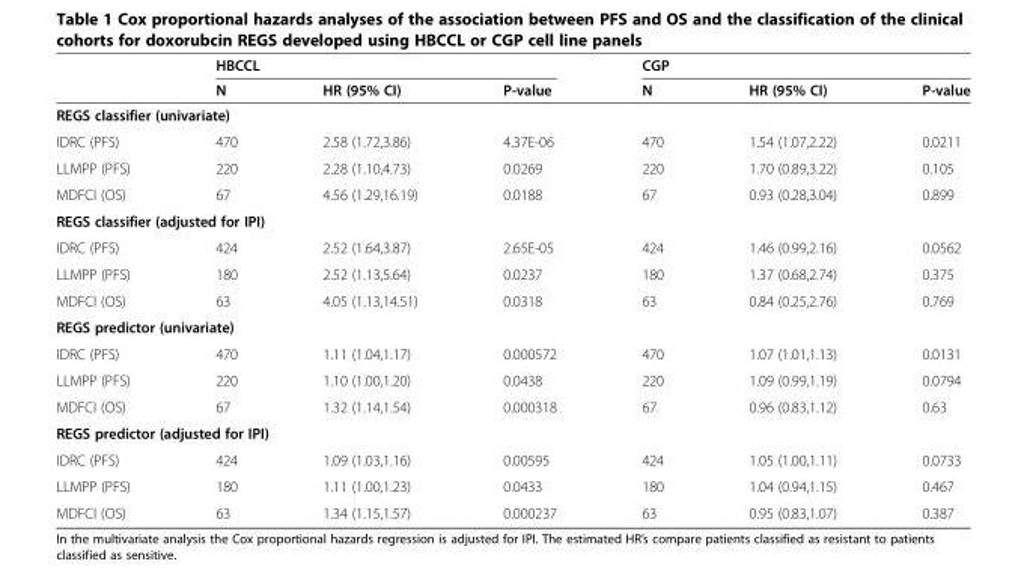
<table><thead><tr><td rowspan="2"></td><td colspan="3">HBCCL</td><td colspan="3">CGP</td></tr><tr><td>N</td><td>HR (95% CI)</td><td>P-value</td><td>N</td><td>HR (95% CI)</td><td>P-value</td></tr></thead><tbody><tr><td colspan="7">REGS classifier (univariate)</td></tr><tr><td>IDRC (PFS)</td><td>470</td><td>2.58 (1.72,3.86)</td><td>4.37E-06</td><td>470</td><td>1.54 (1.07,2.22)</td><td>0.0211</td></tr><tr><td>LLMPP (PFS)</td><td>220</td><td>2.28 (1.10,4.73)</td><td>0.0269</td><td>220</td><td>1.70 (0.89,3.22)</td><td>0.105</td></tr><tr><td>MDFCI (OS)</td><td>67</td><td>4.56 (1.29,16.19)</td><td>0.0188</td><td>67</td><td>0.93 (0.28,3.04)</td><td>0.899</td></tr><tr><td colspan="7">REGS classifier (adjusted for IPI)</td></tr><tr><td>IDRC (PFS)</td><td>424</td><td>2.52 (1.64,3.87)</td><td>2.65E-05</td><td>424</td><td>1.46 (0.99,2.16)</td><td>0.0562</td></tr><tr><td>LLMPP (PFS)</td><td>180</td><td>2.52 (1.13,5.64)</td><td>0.0237</td><td>180</td><td>1.37 (0.68,2.74)</td><td>0.375</td></tr><tr><td>MDFCI (OS)</td><td>63</td><td>4.05 (1.13,14.51)</td><td>0.0318</td><td>63</td><td>0.84 (0.25,2.76)</td><td>0.769</td></tr><tr><td colspan="7">REGS predictor (univariate)</td></tr><tr><td>IDRC (PFS)</td><td>470</td><td>1.11 (1.04,1.17)</td><td>0.000572</td><td>470</td><td>1.07 (1.01,1.13)</td><td>0.0131</td></tr><tr><td>LLMPP (PFS)</td><td>220</td><td>1.10 (1.00,1.20)</td><td>0.0438</td><td>220</td><td>1.09 (0.99,1.19)</td><td>0.0794</td></tr><tr><td>MDFCI (OS)</td><td>67</td><td>1.32 (1.14,1.54)</td><td>0.000318</td><td>67</td><td>0.96 (0.83,1.12)</td><td>0.63</td></tr><tr><td colspan="7">REGS predictor (adjusted for IPI)</td></tr><tr><td>IDRC (PFS)</td><td>424</td><td>1.09 (1.03,1.16)</td><td>0.00595</td><td>424</td><td>1.05 (1.00,1.11)</td><td>0.0733</td></tr><tr><td>LLMPP (PFS)</td><td>180</td><td>1.11 (1.00,1.23)</td><td>0.0433</td><td>180</td><td>1.04 (0.94,1.15)</td><td>0.467</td></tr><tr><td>MDFCI (OS)</td><td>63</td><td>1.34 (1.15,1.57)</td><td>0.000237</td><td>63</td><td>0.95 (0.83,1.07)</td><td>0.387</td></tr></tbody></table>